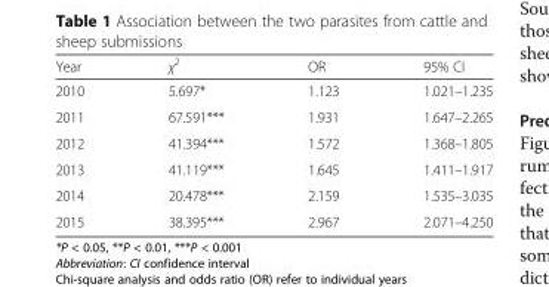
<table><thead><tr><td>Year</td><td>χ<sup>2</sup></td><td>OR</td><td>95% CI</td></tr></thead><tbody><tr><td>2010</td><td>5.697*</td><td>1.123</td><td>1.021–1.235</td></tr><tr><td>2011</td><td>67.591***</td><td>1.931</td><td>1.647–2.265</td></tr><tr><td>2012</td><td>41.394***</td><td>1.572</td><td>1.368–1.805</td></tr><tr><td>2013</td><td>41.119***</td><td>1.645</td><td>1.411–1.917</td></tr><tr><td>2014</td><td>20.478***</td><td>2.159</td><td>1.535–3.035</td></tr><tr><td>2015</td><td>38.395***</td><td>2.967</td><td>2.071–4.250</td></tr></tbody></table>